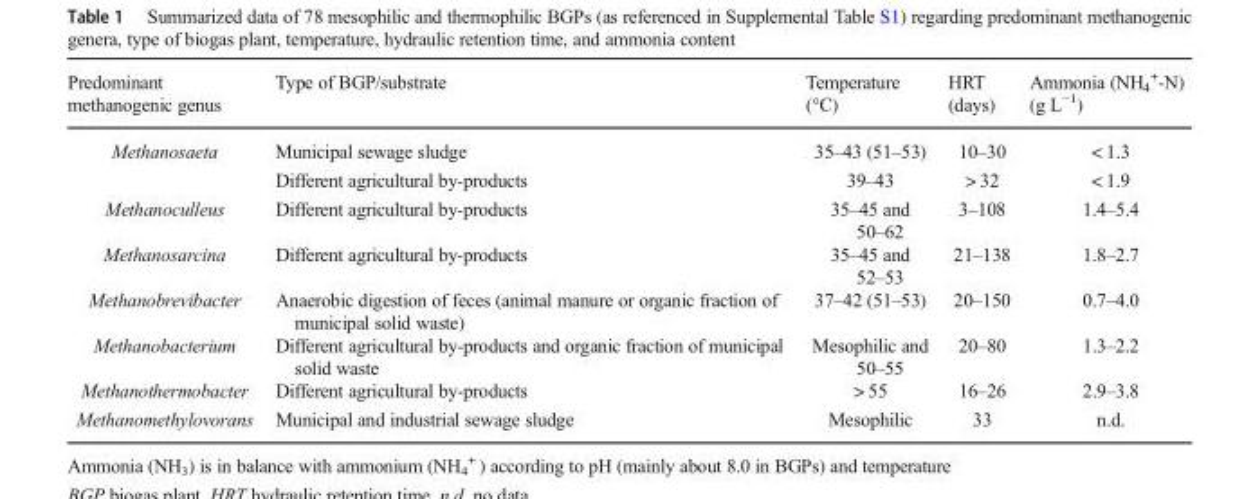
<table><thead><tr><td>Predominant methanogenic genus</td><td>Type of BGP/substrate</td><td>Temperature (°C)</td><td>HRT (days)</td><td>Ammonia (NH<sub>4</sub> <sup>+</sup>-N) (g L<sup>−1</sup>)</td></tr></thead><tbody><tr><td rowspan="2">Methanosaeta</td><td>Municipal sewage sludge</td><td>35–43 (51–53)</td><td>10–30</td><td>&lt; 1.3</td></tr><tr><td>Different agricultural by-products</td><td>39–43</td><td>&gt; 32</td><td>&lt; 1.9</td></tr><tr><td>Methanoculleus</td><td>Different agricultural by-products</td><td>35–45 and 50–62</td><td>3–108</td><td>1.4–5.4</td></tr><tr><td>Methanosarcina</td><td>Different agricultural by-products</td><td>35–45 and 52–53</td><td>21–138</td><td>1.8–2.7</td></tr><tr><td>Methanobrevibacter</td><td>Anaerobic digestion of feces (animal manure or organic fraction of municipal solid waste)</td><td>37–42 (51–53)</td><td>20–150</td><td>0.7–4.0</td></tr><tr><td>Methanobacterium</td><td>Different agricultural by-products and organic fraction of municipal solid waste</td><td>Mesophilic and 50–55</td><td>20–80</td><td>1.3–2.2</td></tr><tr><td>Methanothermobacter</td><td>Different agricultural by-products</td><td>&gt; 55</td><td>16–26</td><td>2.9–3.8</td></tr><tr><td>Methanomethylovorans</td><td>Municipal and industrial sewage sludge</td><td>Mesophilic</td><td>33</td><td>n.d.</td></tr></tbody></table>